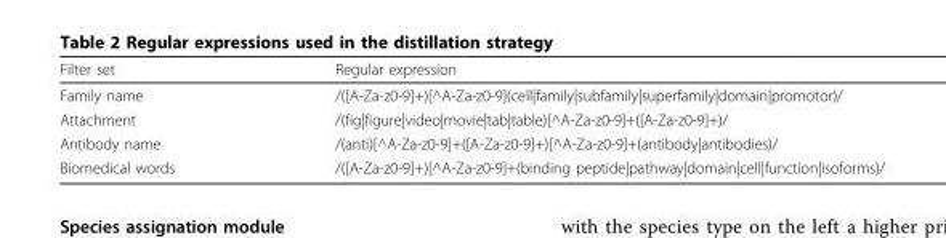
<table><thead><tr><td>Filter set</td><td>Regular expression</td></tr></thead><tbody><tr><td>Family name</td><td>/([A-Za-z0-9]+)[^A-Za-z0-9](cell|family|subfamily|superfamily|domain|promotor)/</td></tr><tr><td>Attachment</td><td>/(fig|figure|video|movie|tab|table)[^A-Za-z0-9]+([A-Za-z0-9]+)/</td></tr><tr><td>Antibody name</td><td>/(anti)[^A-Za-z0-9]+([A-Za-z0-9]+)[^A-Za-z0-9]+(antibody|antibodies)/</td></tr><tr><td>Biomedical words</td><td>/([A-Za-z0-9]+)[^A-Za-z0-9]+(binding peptide|pathway|domain|cell|function|isoforms)/</td></tr></tbody></table>